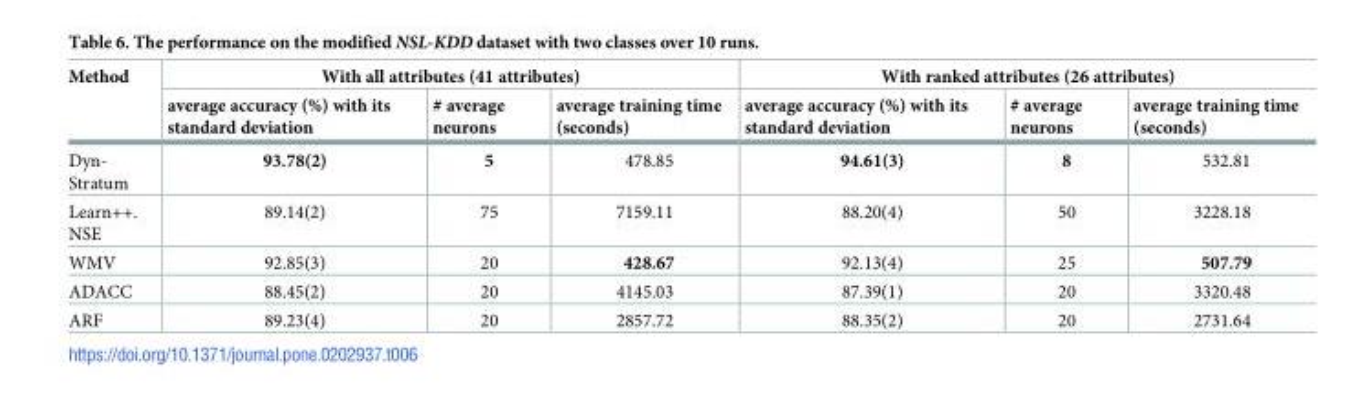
<table><thead><tr><td rowspan="2">Method</td><td colspan="3">With all attributes (41 attributes)</td><td colspan="3">With ranked attributes (26 attributes)</td></tr><tr><td>average accuracy (%) with its standard deviation</td><td># average neurons</td><td>average training time (seconds)</td><td>average accuracy (%) with its standard deviation</td><td># average neurons</td><td>average training time (seconds)</td></tr></thead><tbody><tr><td>Dyn- Stratum</td><td>93.78(2)</td><td>5</td><td>478.85</td><td>94.61(3)</td><td>8</td><td>532.81</td></tr><tr><td>Learn++. NSE</td><td>89.14(2)</td><td>75</td><td>7159.11</td><td>88.20(4)</td><td>50</td><td>3228.18</td></tr><tr><td>WMV</td><td>92.85(3)</td><td>20</td><td>428.67</td><td>92.13(4)</td><td>25</td><td>507.79</td></tr><tr><td>ADACC</td><td>88.45(2)</td><td>20</td><td>4145.03</td><td>87.39(1)</td><td>20</td><td>3320.48</td></tr><tr><td>ARF</td><td>89.23(4)</td><td>20</td><td>2857.72</td><td>88.35(2)</td><td>20</td><td>2731.64</td></tr></tbody></table>